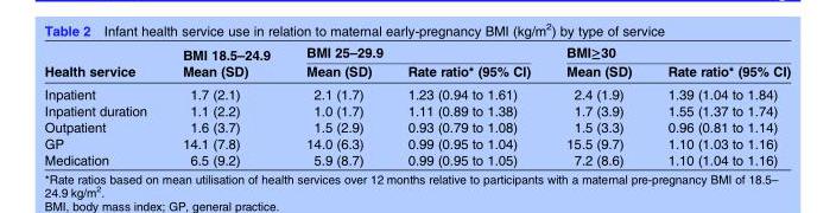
<table><thead><tr><td rowspan="2">Health service</td><td rowspan="2">BMI 18.5–24.9 Mean (SD)</td><td colspan="2">BMI 25–29.9</td><td colspan="2">BMI≥30</td></tr><tr><td>Mean (SD)</td><td>Rate ratio* (95% CI)</td><td>Mean (SD)</td><td>Rate ratio* (95% CI)</td></tr></thead><tbody><tr><td>Inpatient</td><td>1.7 (2.1)</td><td>2.1 (1.7)</td><td>1.23 (0.94 to 1.61)</td><td>2.4 (1.9)</td><td>1.39 (1.04 to 1.84)</td></tr><tr><td>Inpatient duration</td><td>1.1 (2.2)</td><td>1.0 (1.7)</td><td>1.11 (0.89 to 1.38)</td><td>1.7 (3.9)</td><td>1.55 (1.37 to 1.74)</td></tr><tr><td>Outpatient</td><td>1.6 (3.7)</td><td>1.5 (2.9)</td><td>0.93 (0.79 to 1.08)</td><td>1.5 (3.3)</td><td>0.96 (0.81 to 1.14)</td></tr><tr><td>GP</td><td>14.1 (7.8)</td><td>14.0 (6.3)</td><td>0.99 (0.95 to 1.04)</td><td>15.5 (9.7)</td><td>1.10 (1.03 to 1.16)</td></tr><tr><td>Medication</td><td>6.5 (9.2)</td><td>5.9 (8.7)</td><td>0.99 (0.95 to 1.05)</td><td>7.2 (8.6)</td><td>1.10 (1.04 to 1.16)</td></tr></tbody></table>